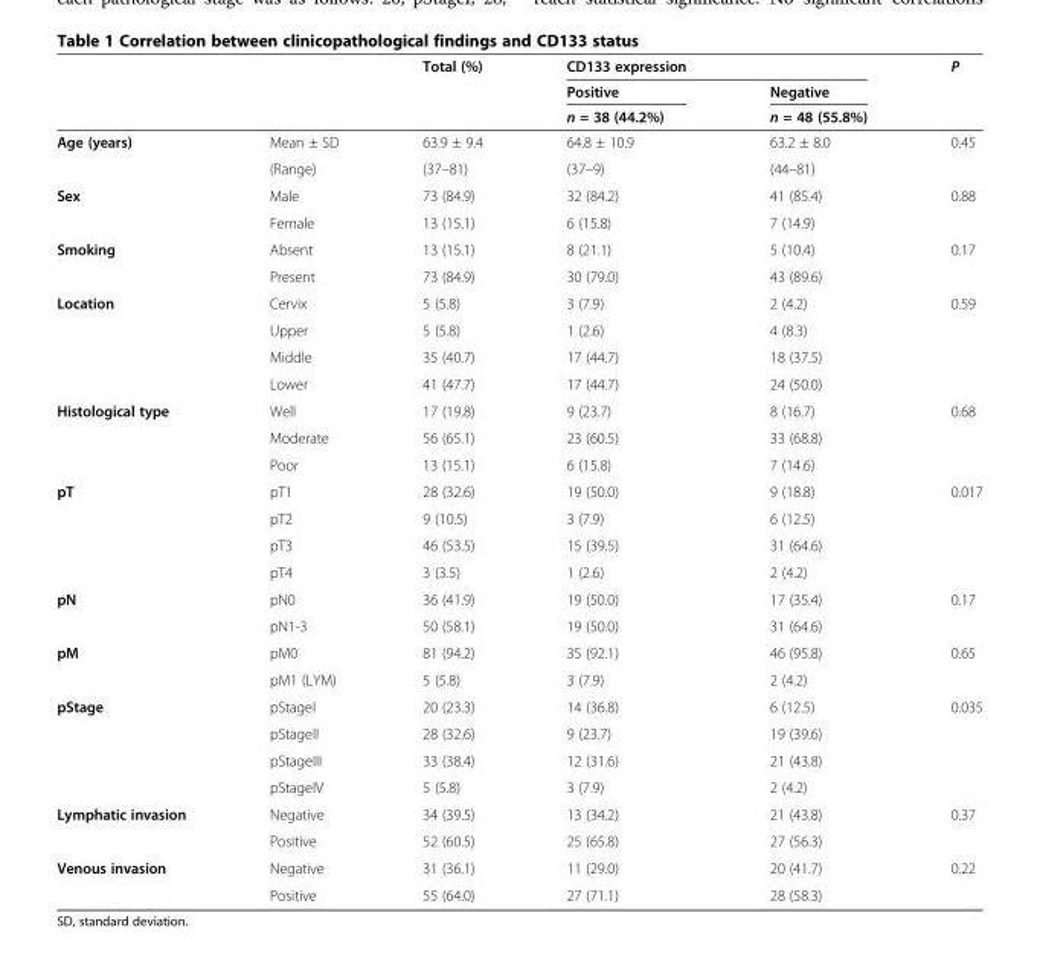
<table><thead><tr><td rowspan="3"></td><td rowspan="3"></td><td rowspan="3">Total (%)</td><td rowspan="3">CD133 expression Positive n = 38 (44.2%)</td><td rowspan="3">Negative n = 48 (55.8%)</td><td rowspan="3">P</td></tr><tr></tr><tr></tr></thead><tbody><tr><td rowspan="2">Age (years)</td><td>Mean ± SD</td><td>63.9 ± 9.4</td><td>64.8 ± 10.9</td><td>63.2 ± 8.0</td><td rowspan="2">0.45</td></tr><tr><td>(Range)</td><td>(37–81)</td><td>(37–9)</td><td>(44–81)</td></tr><tr><td rowspan="2">Sex</td><td>Male</td><td>73 (84.9)</td><td>32 (84.2)</td><td>41 (85.4)</td><td rowspan="2">0.88</td></tr><tr><td>Female</td><td>13 (15.1)</td><td>6 (15.8)</td><td>7 (14.9)</td></tr><tr><td rowspan="2">Smoking</td><td>Absent</td><td>13 (15.1)</td><td>8 (21.1)</td><td>5 (10.4)</td><td rowspan="2">0.17</td></tr><tr><td>Present</td><td>73 (84.9)</td><td>30 (79.0)</td><td>43 (89.6)</td></tr><tr><td rowspan="4">Location</td><td>Cervix</td><td>5 (5.8)</td><td>3 (7.9)</td><td>2 (4.2)</td><td rowspan="4">0.59</td></tr><tr><td>Upper</td><td>5 (5.8)</td><td>1 (2.6)</td><td>4 (8.3)</td></tr><tr><td>Middle</td><td>35 (40.7)</td><td>17 (44.7)</td><td>18 (37.5)</td></tr><tr><td>Lower</td><td>41 (47.7)</td><td>17 (44.7)</td><td>24 (50.0)</td></tr><tr><td rowspan="3">Histological type</td><td>Well</td><td>17 (19.8)</td><td>9 (23.7)</td><td>8 (16.7)</td><td rowspan="3">0.68</td></tr><tr><td>Moderate</td><td>56 (65.1)</td><td>23 (60.5)</td><td>33 (68.8)</td></tr><tr><td>Poor</td><td>13 (15.1)</td><td>6 (15.8)</td><td>7 (14.6)</td></tr><tr><td rowspan="4">pT</td><td>pT1</td><td>28 (32.6)</td><td>19 (50.0)</td><td>9 (18.8)</td><td rowspan="4">0.017</td></tr><tr><td>pT2</td><td>9 (10.5)</td><td>3 (7.9)</td><td>6 (12.5)</td></tr><tr><td>pT3</td><td>46 (53.5)</td><td>15 (39.5)</td><td>31 (64.6)</td></tr><tr><td>pT4</td><td>3 (3.5)</td><td>1 (2.6)</td><td>2 (4.2)</td></tr><tr><td rowspan="2">pN</td><td>pN0</td><td>36 (41.9)</td><td>19 (50.0)</td><td>17 (35.4)</td><td rowspan="2">0.17</td></tr><tr><td>pN1-3</td><td>50 (58.1)</td><td>19 (50.0)</td><td>31 (64.6)</td></tr><tr><td rowspan="2">pM</td><td>pM0</td><td>81 (94.2)</td><td>35 (92.1)</td><td>46 (95.8)</td><td rowspan="2">0.65</td></tr><tr><td>pM1 (LYM)</td><td>5 (5.8)</td><td>3 (7.9)</td><td>2 (4.2)</td></tr><tr><td rowspan="4">pStage</td><td>pStageI</td><td>20 (23.3)</td><td>14 (36.8)</td><td>6 (12.5)</td><td rowspan="4">0.035</td></tr><tr><td>pStageII</td><td>28 (32.6)</td><td>9 (23.7)</td><td>19 (39.6)</td></tr><tr><td>pStageIII</td><td>33 (38.4)</td><td>12 (31.6)</td><td>21 (43.8)</td></tr><tr><td>pStageIV</td><td>5 (5.8)</td><td>3 (7.9)</td><td>2 (4.2)</td></tr><tr><td rowspan="2">Lymphatic invasion</td><td>Negative</td><td>34 (39.5)</td><td>13 (34.2)</td><td>21 (43.8)</td><td rowspan="2">0.37</td></tr><tr><td>Positive</td><td>52 (60.5)</td><td>25 (65.8)</td><td>27 (56.3)</td></tr><tr><td rowspan="2">Venous invasion</td><td>Negative</td><td>31 (36.1)</td><td>11 (29.0)</td><td>20 (41.7)</td><td>0.22</td></tr><tr><td>Positive</td><td>55 (64.0)</td><td>27 (71.1)</td><td>28 (58.3)</td><td></td></tr></tbody></table>